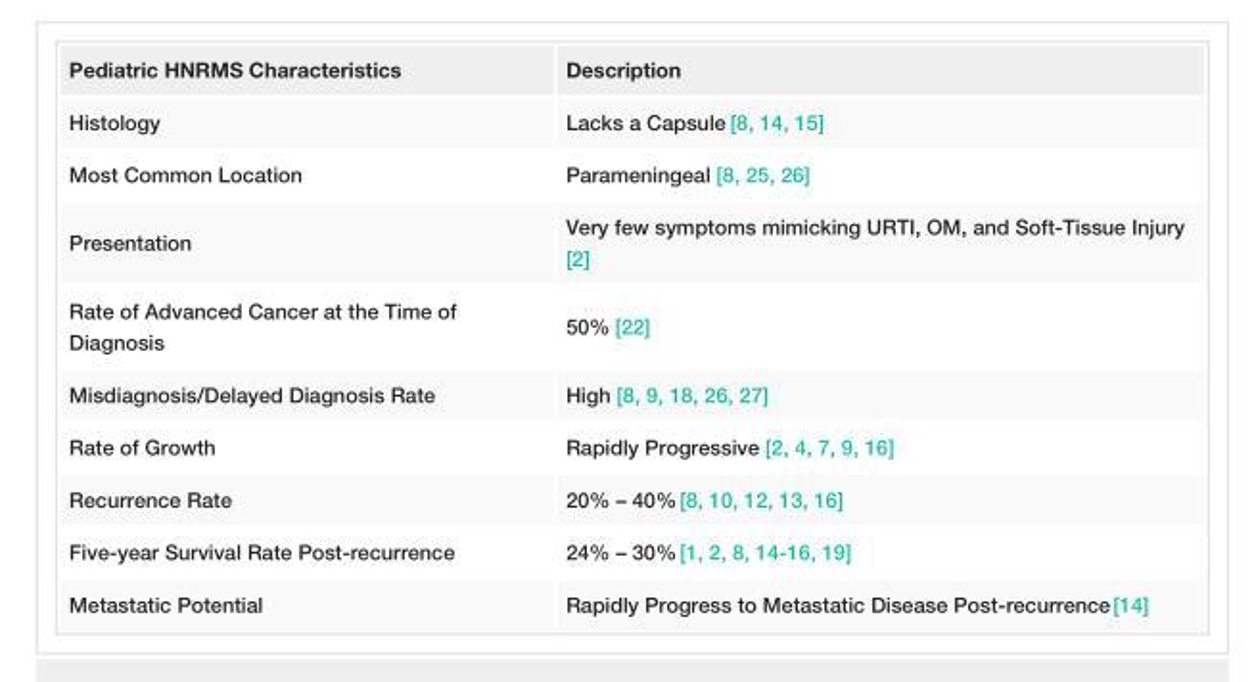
<table><tbody><tr><td>Pediatric HNRMS Characteristics</td><td>Description</td></tr><tr><td>Histology</td><td>Lacks a Capsule [8, 14, 15]</td></tr><tr><td>Most Common Location</td><td>Parameningeal [8, 25, 26]</td></tr><tr><td>Presentation</td><td>Very few symptoms mimicking URTI, OM, and Soft-Tissue Injury [2]</td></tr><tr><td>Rate of Advanced Cancer at the Time of Diagnosis</td><td>50% [22]</td></tr><tr><td>Misdiagnosis/Delayed Diagnosis Rate</td><td>High [8, 9, 18, 26, 27]</td></tr><tr><td>Rate of Growth</td><td>Rapidly Progressive [2, 4, 7, 9, 16]</td></tr><tr><td>Recurrence Rate</td><td>20% – 40% [8, 10, 12, 13, 16]</td></tr><tr><td>Five-year Survival Rate Post-recurrence</td><td>24% – 30% [1, 2, 8, 14-16, 19]</td></tr><tr><td>Metastatic Potential</td><td>Rapidly Progress to Metastatic Disease Post-recurrence [14]</td></tr></tbody></table>